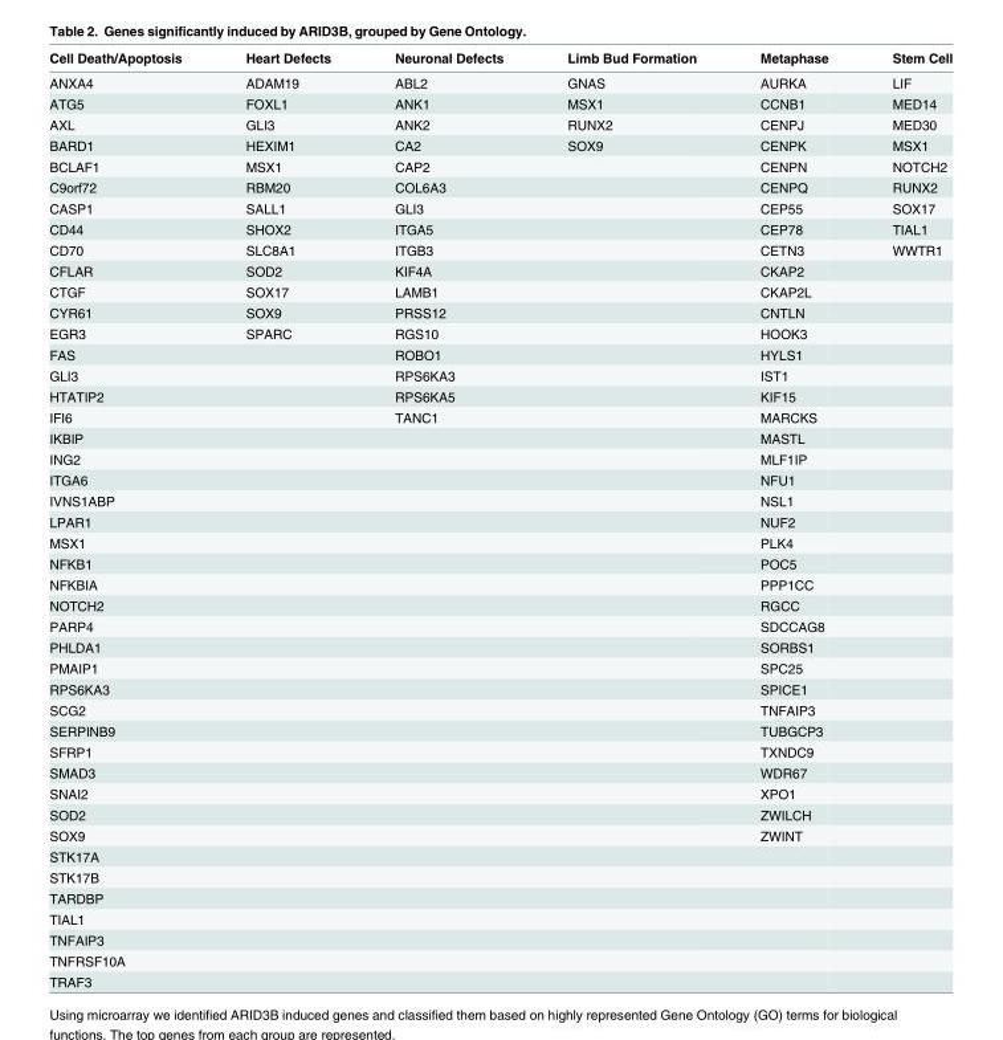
<table><thead><tr><td>Cell Death/Apoptosis</td><td>Heart Defects</td><td>Neuronal Defects</td><td>Limb Bud Formation</td><td>Metaphase</td><td>Stem Cell</td></tr></thead><tbody><tr><td>ANXA4</td><td>ADAM19</td><td>ABL2</td><td>GNAS</td><td>AURKA</td><td>LIF</td></tr><tr><td>ATG5</td><td>FOXL1</td><td>ANK1</td><td>MSX1</td><td>CCNB1</td><td>MED14</td></tr><tr><td>AXL</td><td>GLI3</td><td>ANK2</td><td>RUNX2</td><td>CENPJ</td><td>MED30</td></tr><tr><td>BARD1</td><td>HEXIM1</td><td>CA2</td><td>SOX9</td><td>CENPK</td><td>MSX1</td></tr><tr><td>BCLAF1</td><td>MSX1</td><td>CAP2</td><td></td><td>CENPN</td><td>NOTCH2</td></tr><tr><td>C9orf72</td><td>RBM20</td><td>COL6A3</td><td></td><td>CENPQ</td><td>RUNX2</td></tr><tr><td>CASP1</td><td>SALL1</td><td>GLI3</td><td></td><td>CEP55</td><td>SOX17</td></tr><tr><td>CD44</td><td>SHOX2</td><td>ITGA5</td><td></td><td>CEP78</td><td>TIAL1</td></tr><tr><td>CD70</td><td>SLC8A1</td><td>ITGB3</td><td></td><td>CETN3</td><td>WWTR1</td></tr><tr><td>CFLAR</td><td>SOD2</td><td>KIF4A</td><td></td><td>CKAP2</td><td></td></tr><tr><td>CTGF</td><td>SOX17</td><td>LAMB1</td><td></td><td>CKAP2L</td><td></td></tr><tr><td>CYR61</td><td>SOX9</td><td>PRSS12</td><td></td><td>CNTLN</td><td></td></tr><tr><td>EGR3</td><td>SPARC</td><td>RGS10</td><td></td><td>HOOK3</td><td></td></tr><tr><td>FAS</td><td></td><td>ROBO1</td><td></td><td>HYLS1</td><td></td></tr><tr><td>GLI3</td><td></td><td>RPS6KA3</td><td></td><td>IST1</td><td></td></tr><tr><td>HTATIP2</td><td></td><td>RPS6KA5</td><td></td><td>KIF15</td><td></td></tr><tr><td>IFI6</td><td></td><td>TANC1</td><td></td><td>MARCKS</td><td></td></tr><tr><td>IKBIP</td><td></td><td></td><td></td><td>MASTL</td><td></td></tr><tr><td>ING2</td><td></td><td></td><td></td><td>MLF1IP</td><td></td></tr><tr><td>ITGA6</td><td></td><td></td><td></td><td>NFU1</td><td></td></tr><tr><td>IVNS1ABP</td><td></td><td></td><td></td><td>NSL1</td><td></td></tr><tr><td>LPAR1</td><td></td><td></td><td></td><td>NUF2</td><td></td></tr><tr><td>MSX1</td><td></td><td></td><td></td><td>PLK4</td><td></td></tr><tr><td>NFKB1</td><td></td><td></td><td></td><td>POC5</td><td></td></tr><tr><td>NFKBIA</td><td></td><td></td><td></td><td>PPP1CC</td><td></td></tr><tr><td>NOTCH2</td><td></td><td></td><td></td><td>RGCC</td><td></td></tr><tr><td>PARP4</td><td></td><td></td><td></td><td>SDCCAG8</td><td></td></tr><tr><td>PHLDA1</td><td></td><td></td><td></td><td>SORBS1</td><td></td></tr><tr><td>PMAIP1</td><td></td><td></td><td></td><td>SPC25</td><td></td></tr><tr><td>RPS6KA3</td><td></td><td></td><td></td><td>SPICE1</td><td></td></tr><tr><td>SCG2</td><td></td><td></td><td></td><td>TNFAIP3</td><td></td></tr><tr><td>SERPINB9</td><td></td><td></td><td></td><td>TUBGCP3</td><td></td></tr><tr><td>SFRP1</td><td></td><td></td><td></td><td>TXNDC9</td><td></td></tr><tr><td>SMAD3</td><td></td><td></td><td></td><td>WDR67</td><td></td></tr><tr><td>SNAI2</td><td></td><td></td><td></td><td>XPO1</td><td></td></tr><tr><td>SOD2</td><td></td><td></td><td></td><td>ZWILCH</td><td></td></tr><tr><td>SOX9</td><td></td><td></td><td></td><td>ZWINT</td><td></td></tr><tr><td colspan="6">STK17A</td></tr><tr><td colspan="6">STK17B</td></tr><tr><td colspan="6">TARDBP</td></tr><tr><td colspan="6">TIAL1</td></tr><tr><td colspan="6">TNFAIP3</td></tr><tr><td colspan="6">TNFRSF10A</td></tr><tr><td>TRAF3</td><td></td><td></td><td></td><td></td><td></td></tr></tbody></table>